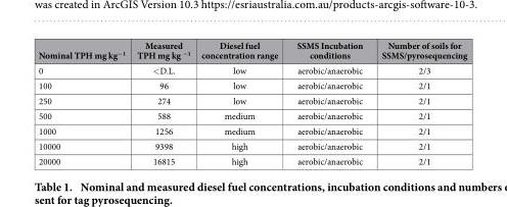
<table><thead><tr><td>Nominal TPH mg kg<sup>−1</sup></td><td>Measured TPH mg kg <sup>−1</sup></td><td>Diesel fuel concentration range</td><td>SSMS Incubation conditions</td><td>Number of soils for SSMS/pyrosequencing</td></tr></thead><tbody><tr><td>0</td><td>&lt; D.L.</td><td>low</td><td>aerobic/anaerobic</td><td>2/3</td></tr><tr><td>100</td><td>96</td><td>low</td><td>aerobic/anaerobic</td><td>2/1</td></tr><tr><td>250</td><td>274</td><td>low</td><td>aerobic/anaerobic</td><td>2/1</td></tr><tr><td>500</td><td>588</td><td>medium</td><td>aerobic/anaerobic</td><td>2/1</td></tr><tr><td>1000</td><td>1256</td><td>medium</td><td>aerobic/anaerobic</td><td>2/1</td></tr><tr><td>10000</td><td>9398</td><td>high</td><td>aerobic/anaerobic</td><td>2/1</td></tr><tr><td>20000</td><td>16815</td><td>high</td><td>aerobic/anaerobic</td><td>2/1</td></tr></tbody></table>